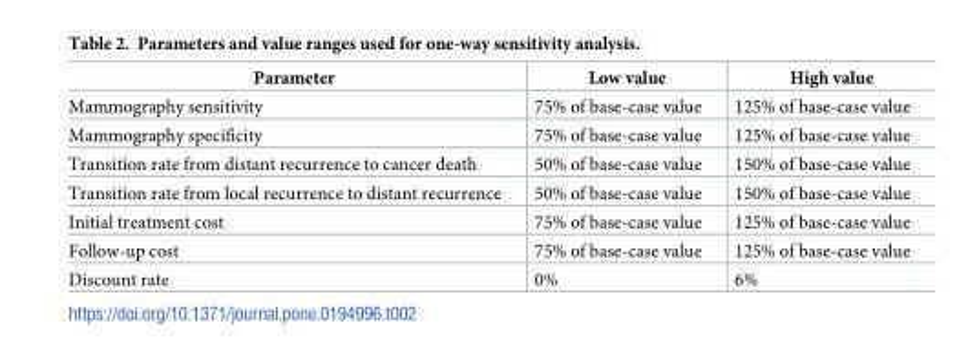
<table><tbody><tr><td>Parameter</td><td>Low value</td><td>High value</td></tr><tr><td>Mammography sensitivity</td><td>75% of base-case value</td><td>125% of base-case value</td></tr><tr><td>Mammography specificity</td><td>75% of base-case value</td><td>125% of base-case value</td></tr><tr><td>Transition rate from distant recurrence to cancer death</td><td>50% of base-case value</td><td>150% of base-case value</td></tr><tr><td>Transition rate from local recurrence to distant recurrence</td><td>50% of base-case value</td><td>150% of base-case value</td></tr><tr><td>Initial treatment cost</td><td>75% of base-case value</td><td>125% of base-case value</td></tr><tr><td>Follow-up cost</td><td>75% of base-case value</td><td>125% of base-case value</td></tr><tr><td>Discount rate</td><td>0%</td><td>6%</td></tr></tbody></table>